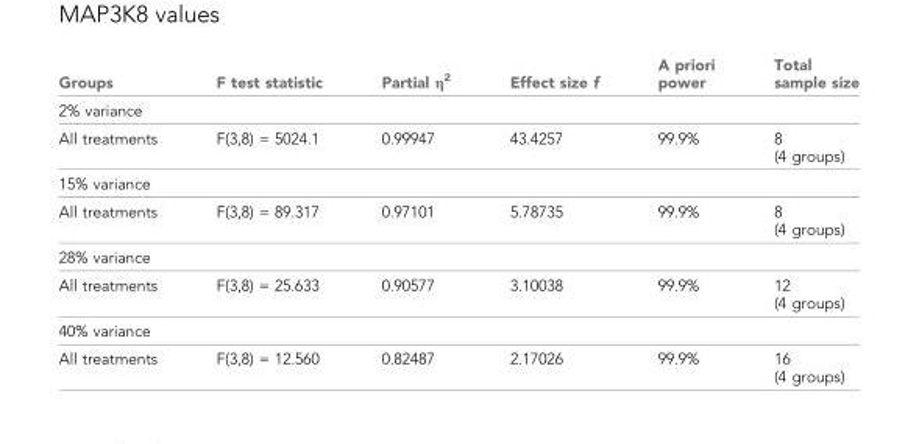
<table><thead><tr><td>Groups</td><td>F test statistic</td><td>Partial η<sup>2</sup></td><td>Effect size f</td><td>A priori power</td><td>Total sample size</td></tr></thead><tbody><tr><td colspan="6">2% variance</td></tr><tr><td>All treatments</td><td>F(3,8) = 5024.1</td><td>0.99947</td><td>43.4257</td><td>99.9%</td><td>8 (4 groups)</td></tr><tr><td colspan="6">15% variance</td></tr><tr><td>All treatments</td><td>F(3,8) = 89.317</td><td>0.97101</td><td>5.78735</td><td>99.9%</td><td>8 (4 groups)</td></tr><tr><td colspan="6">28% variance</td></tr><tr><td>All treatments</td><td>F(3,8) = 25.633</td><td>0.90577</td><td>3.10038</td><td>99.9%</td><td>12 (4 groups)</td></tr><tr><td colspan="6">40% variance</td></tr><tr><td>All treatments</td><td>F(3,8) = 12.560</td><td>0.82487</td><td>2.17026</td><td>99.9%</td><td>16 (4 groups)</td></tr></tbody></table>